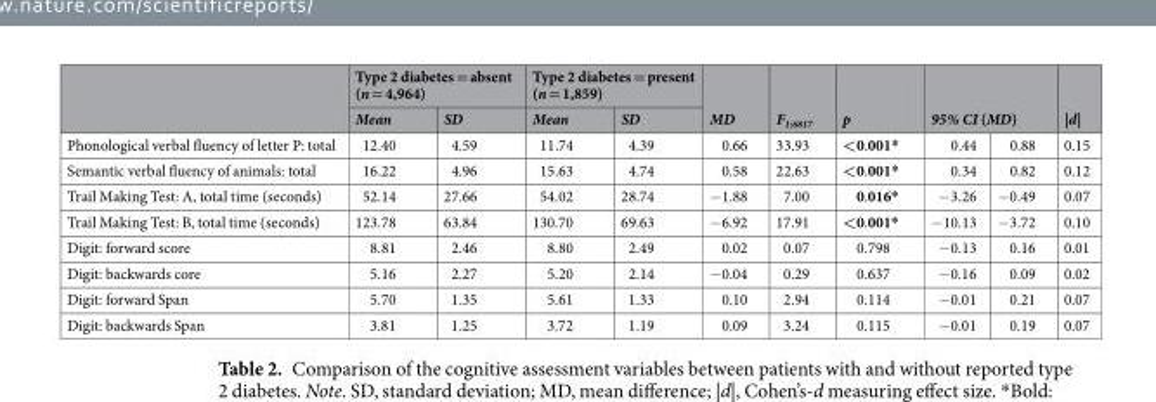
<table><thead><tr><td rowspan="3">Phonological verbal fluency of letter P: total</td><td colspan="2">Type 2 diabetes = absent (n = 4,964)</td><td colspan="2">Type 2 diabetes = present (n = 1,859)</td><td rowspan="3">MD 0.66</td><td rowspan="3">F<sub>1;6817</sub> 33.93</td><td rowspan="3">p &lt;0.001*</td><td rowspan="2" colspan="2">95% CI (MD)</td><td rowspan="3">|d| 0.15</td></tr><tr><td rowspan="2">Mean 12.40</td><td rowspan="2">SD 4.59</td><td rowspan="2">Mean 11.74</td><td rowspan="2">SD 4.39</td></tr><tr><td>0.44</td><td>0.88</td></tr></thead><tbody><tr><td>Semantic verbal fluency of animals: total</td><td>16.22</td><td>4.96</td><td>15.63</td><td>4.74</td><td>0.58</td><td>22.63</td><td>&lt;0.001*</td><td>0.34</td><td>0.82</td><td>0.12</td></tr><tr><td>Trail Making Test: A, total time (seconds)</td><td>52.14</td><td>27.66</td><td>54.02</td><td>28.74</td><td>−1.88</td><td>7.00</td><td>0.016*</td><td>−3.26</td><td>−0.49</td><td>0.07</td></tr><tr><td>Trail Making Test: B, total time (seconds)</td><td>123.78</td><td>63.84</td><td>130.70</td><td>69.63</td><td>−6.92</td><td>17.91</td><td>&lt;0.001*</td><td>−10.13</td><td>−3.72</td><td>0.10</td></tr><tr><td>Digit: forward score</td><td>8.81</td><td>2.46</td><td>8.80</td><td>2.49</td><td>0.02</td><td>0.07</td><td>0.798</td><td>−0.13</td><td>0.16</td><td>0.01</td></tr><tr><td>Digit: backwards core</td><td>5.16</td><td>2.27</td><td>5.20</td><td>2.14</td><td>−0.04</td><td>0.29</td><td>0.637</td><td>−0.16</td><td>0.09</td><td>0.02</td></tr><tr><td>Digit: forward Span</td><td>5.70</td><td>1.35</td><td>5.61</td><td>1.33</td><td>0.10</td><td>2.94</td><td>0.114</td><td>−0.01</td><td>0.21</td><td>0.07</td></tr><tr><td>Digit: backwards Span</td><td>3.81</td><td>1.25</td><td>3.72</td><td>1.19</td><td>0.09</td><td>3.24</td><td>0.115</td><td>−0.01</td><td>0.19</td><td>0.07</td></tr></tbody></table>